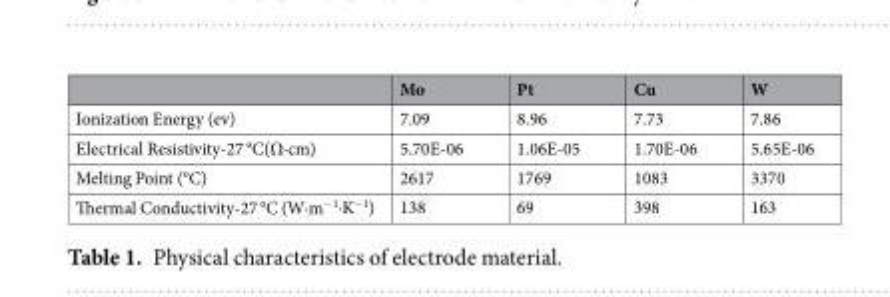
<table><thead><tr><td></td><td>Mo</td><td>Pt</td><td>Cu</td><td>W</td></tr></thead><tbody><tr><td>Ionization Energy (ev)</td><td>7.09</td><td>8.96</td><td>7.73</td><td>7.86</td></tr><tr><td>Electrical Resistivity-27 °C(Ω·cm)</td><td>5.70E-06</td><td>1.06E-05</td><td>1.70E-06</td><td>5.65E-06</td></tr><tr><td>Melting Point (°C)</td><td>2617</td><td>1769</td><td>1083</td><td>3370</td></tr><tr><td>Thermal Conductivity-27 °C (W·m<sup>−1</sup>·K<sup>−1</sup>)</td><td>138</td><td>69</td><td>398</td><td>163</td></tr></tbody></table>